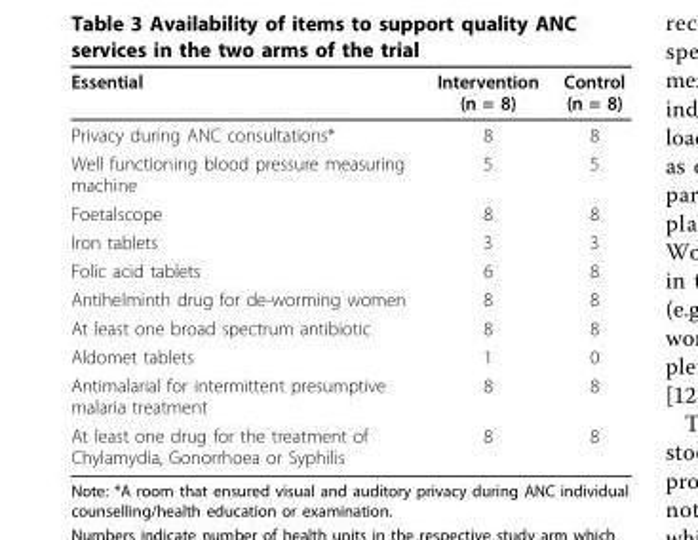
<table><thead><tr><td>Essential</td><td>Intervention (n = 8)</td><td>Control (n = 8)</td></tr></thead><tbody><tr><td>Privacy during ANC consultations*</td><td>8</td><td>8</td></tr><tr><td>Well functioning blood pressure measuring machine</td><td>5</td><td>5</td></tr><tr><td>Foetalscope</td><td>8</td><td>8</td></tr><tr><td>Iron tablets</td><td>3</td><td>3</td></tr><tr><td>Folic acid tablets</td><td>6</td><td>8</td></tr><tr><td>Antihelminth drug for de-worming women</td><td>8</td><td>8</td></tr><tr><td>At least one broad spectrum antibiotic</td><td>8</td><td>8</td></tr><tr><td>Aldomet tablets</td><td>1</td><td>0</td></tr><tr><td>Antimalarial for intermittent presumptive malaria treatment</td><td>8</td><td>8</td></tr><tr><td>At least one drug for the treatment of Chylamydia, Gonorrhoea or Syphilis</td><td>8</td><td>8</td></tr></tbody></table>